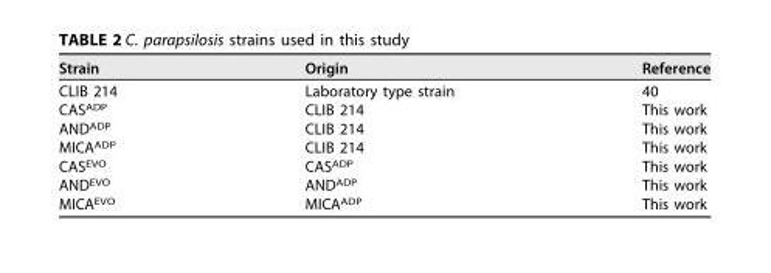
<table><thead><tr><td>Strain</td><td>Origin</td><td>Reference</td></tr></thead><tbody><tr><td>CLIB 214</td><td>Laboratory type strain</td><td>40</td></tr><tr><td>CAS<sup>ADP</sup></td><td>CLIB 214</td><td>This work</td></tr><tr><td>AND<sup>ADP</sup></td><td>CLIB 214</td><td>This work</td></tr><tr><td>MICA<sup>ADP</sup></td><td>CLIB 214</td><td>This work</td></tr><tr><td>CAS<sup>EVO</sup></td><td>CAS<sup>ADP</sup></td><td>This work</td></tr><tr><td>AND<sup>EVO</sup></td><td>AND<sup>ADP</sup></td><td>This work</td></tr><tr><td>MICA<sup>EVO</sup></td><td>MICA<sup>ADP</sup></td><td>This work</td></tr></tbody></table>